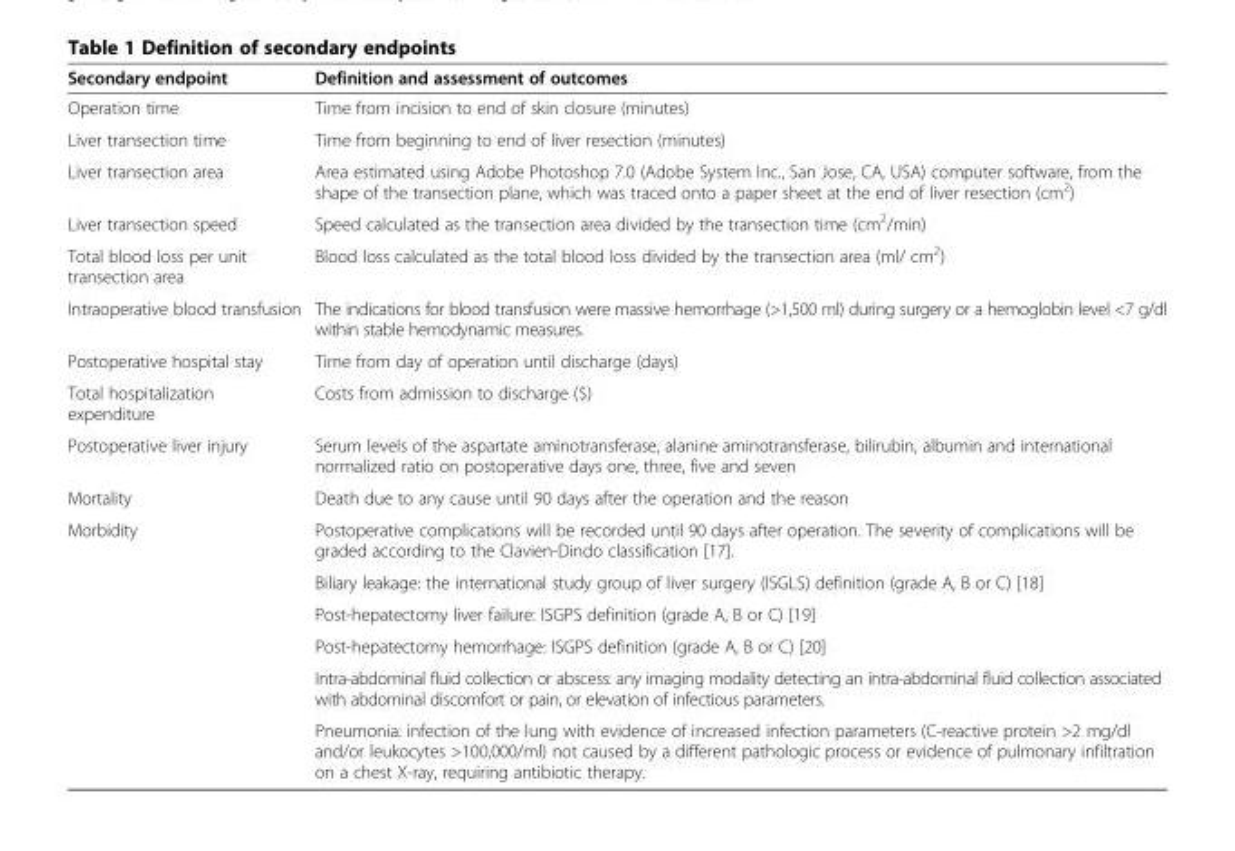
<table><thead><tr><td>Secondary endpoint</td><td>Definition and assessment of outcomes</td></tr></thead><tbody><tr><td>Operation time</td><td>Time from incision to end of skin closure (minutes)</td></tr><tr><td>Liver transection time</td><td>Time from beginning to end of liver resection (minutes)</td></tr><tr><td>Liver transection area</td><td>Area estimated using Adobe Photoshop 7.0 (Adobe System Inc., San Jose, CA, USA) computer software, from the shape of the transection plane, which was traced onto a paper sheet at the end of liver resection (cm<sup>2</sup>)</td></tr><tr><td>Liver transection speed</td><td>Speed calculated as the transection area divided by the transection time (cm<sup>2</sup>/min)</td></tr><tr><td>Total blood loss per unit transection area</td><td>Blood loss calculated as the total blood loss divided by the transection area (ml/ cm<sup>2</sup>)</td></tr><tr><td>Intraoperative blood transfusion</td><td>The indications for blood transfusion were massive hemorrhage (&gt;1,500 ml) during surgery or a hemoglobin level &lt;7 g/dl within stable hemodynamic measures.</td></tr><tr><td>Postoperative hospital stay</td><td>Time from day of operation until discharge (days)</td></tr><tr><td>Total hospitalization expenditure</td><td>Costs from admission to discharge ($)</td></tr><tr><td>Postoperative liver injury</td><td>Serum levels of the aspartate aminotransferase, alanine aminotransferase, bilirubin, albumin and international normalized ratio on postoperative days one, three, five and seven</td></tr><tr><td>Mortality</td><td>Death due to any cause until 90 days after the operation and the reason</td></tr><tr><td rowspan="6">Morbidity</td><td>Postoperative complications will be recorded until 90 days after operation. The severity of complications will be graded according to the Clavien-Dindo classification [17].</td></tr><tr><td>Biliary leakage: the international study group of liver surgery (ISGLS) definition (grade A, B or C) [18]</td></tr><tr><td>Post-hepatectomy liver failure: ISGPS definition (grade A, B or C) [19]</td></tr><tr><td>Post-hepatectomy hemorrhage: ISGPS definition (grade A, B or C) [20]</td></tr><tr><td>Intra-abdominal fluid collection or abscess: any imaging modality detecting an intra-abdominal fluid collection associated with abdominal discomfort or pain, or elevation of infectious parameters.</td></tr><tr><td>Pneumonia: infection of the lung with evidence of increased infection parameters (C-reactive protein &gt;2 mg/dl and/or leukocytes &gt;100,000/ml) not caused by a different pathologic process or evidence of pulmonary infiltration on a chest X-ray, requiring antibiotic therapy.</td></tr></tbody></table>